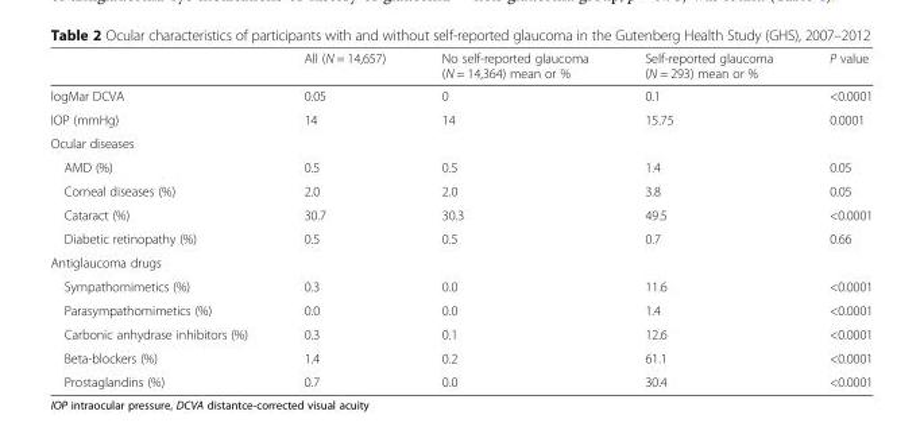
<table><thead><tr><td></td><td>All (N = 14,657)</td><td>No self-reported glaucoma (N = 14,364) mean or %</td><td>Self-reported glaucoma (N = 293) mean or %</td><td>P value</td></tr></thead><tbody><tr><td>logMar DCVA</td><td>0.05</td><td>0</td><td>0.1</td><td>&lt;0.0001</td></tr><tr><td>IOP (mmHg)</td><td>14</td><td>14</td><td>15.75</td><td>0.0001</td></tr><tr><td colspan="5">Ocular diseases</td></tr><tr><td>AMD (%)</td><td>0.5</td><td>0.5</td><td>1.4</td><td>0.05</td></tr><tr><td>Corneal diseases (%)</td><td>2.0</td><td>2.0</td><td>3.8</td><td>0.05</td></tr><tr><td>Cataract (%)</td><td>30.7</td><td>30.3</td><td>49.5</td><td>&lt;0.0001</td></tr><tr><td>Diabetic retinopathy (%)</td><td>0.5</td><td>0.5</td><td>0.7</td><td>0.66</td></tr><tr><td colspan="5">Antiglaucoma drugs</td></tr><tr><td>Sympathomimetics (%)</td><td>0.3</td><td>0.0</td><td>11.6</td><td>&lt;0.0001</td></tr><tr><td>Parasympathomimetics (%)</td><td>0.0</td><td>0.0</td><td>1.4</td><td>&lt;0.0001</td></tr><tr><td>Carbonic anhydrase inhibitors (%)</td><td>0.3</td><td>0.1</td><td>12.6</td><td>&lt;0.0001</td></tr><tr><td>Beta-blockers (%)</td><td>1.4</td><td>0.2</td><td>61.1</td><td>&lt;0.0001</td></tr><tr><td>Prostaglandins (%)</td><td>0.7</td><td>0.0</td><td>30.4</td><td>&lt;0.0001</td></tr></tbody></table>